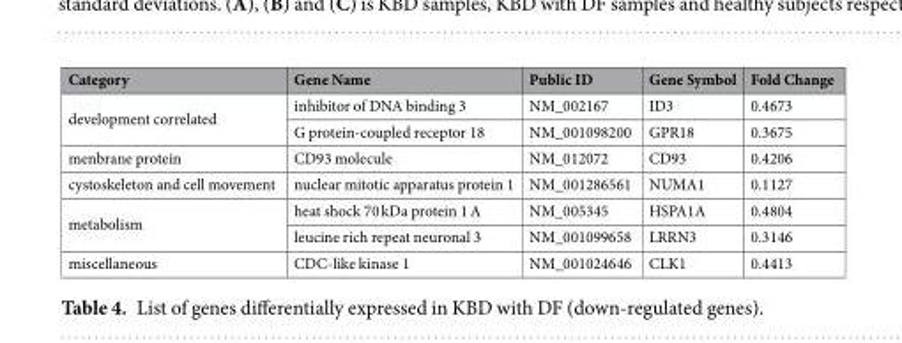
<table><thead><tr><td>Category</td><td>Gene Name</td><td>Public ID</td><td>Gene Symbol</td><td>Fold Change</td></tr></thead><tbody><tr><td rowspan="2">development correlated</td><td>inhibitor of DNA binding 3</td><td>NM_002167</td><td>ID3</td><td>0.4673</td></tr><tr><td>G protein-coupled receptor 18</td><td>NM_001098200</td><td>GPR18</td><td>0.3675</td></tr><tr><td>menbrane protein</td><td>CD93 molecule</td><td>NM_012072</td><td>CD93</td><td>0.4206</td></tr><tr><td>cystoskeleton and cell movement</td><td>nuclear mitotic apparatus protein 1</td><td>NM_001286561</td><td>NUMA1</td><td>0.1127</td></tr><tr><td rowspan="2">metabolism</td><td>heat shock 70 kDa protein 1 A</td><td>NM_005345</td><td>HSPA1A</td><td>0.4804</td></tr><tr><td>leucine rich repeat neuronal 3</td><td>NM_001099658</td><td>LRRN3</td><td>0.3146</td></tr><tr><td>miscellaneous</td><td>CDC-like kinase 1</td><td>NM_001024646</td><td>CLK1</td><td>0.4413</td></tr></tbody></table>